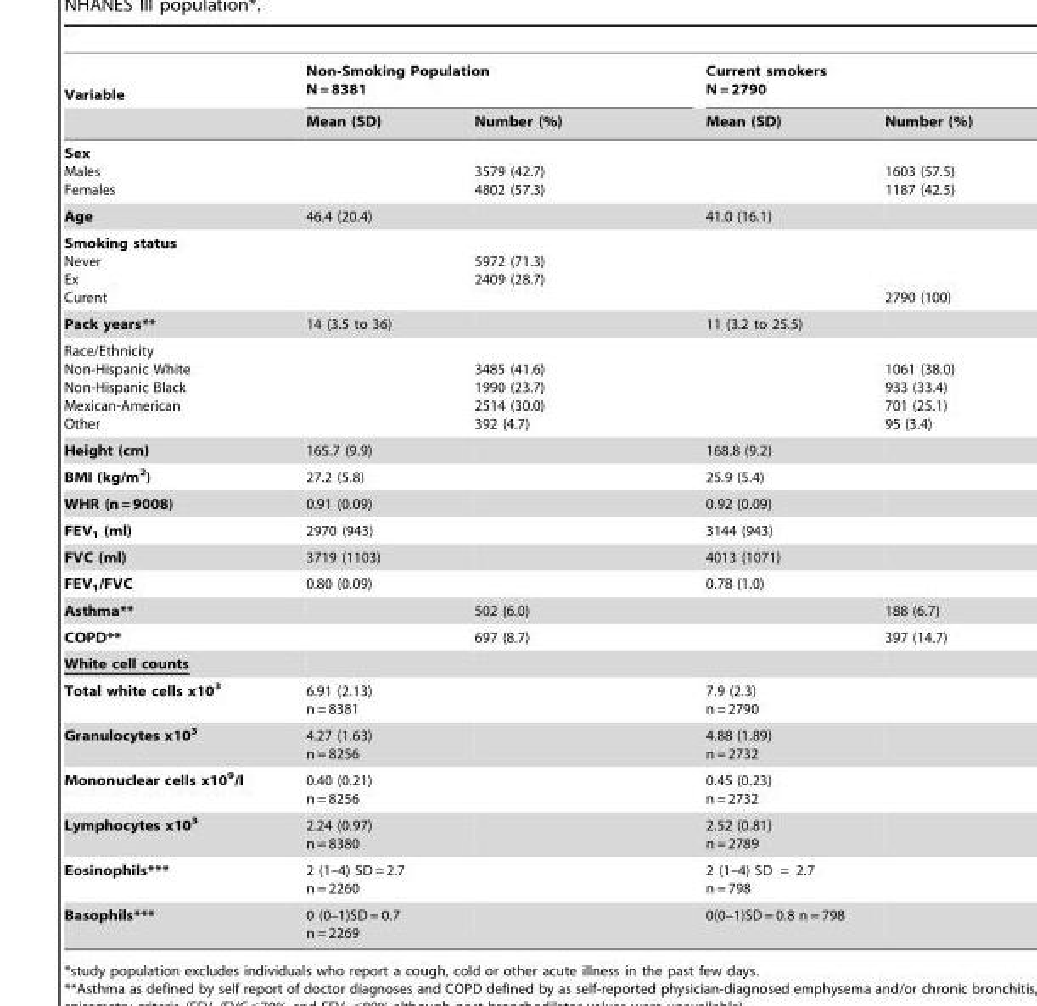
<table><thead><tr><td rowspan="2">Variable</td><td colspan="2">Non-Smoking Population N = 8381</td><td colspan="2">Current smokers N = 2790</td></tr><tr><td>Mean (SD)</td><td>Number (%)</td><td>Mean (SD)</td><td>Number (%)</td></tr></thead><tbody><tr><td>Sex Males Females</td><td></td><td>3579 (42.7) 4802 (57.3)</td><td></td><td>1603 (57.5) 1187 (42.5)</td></tr><tr><td>Age</td><td>46.4 (20.4)</td><td></td><td>41.0 (16.1)</td><td></td></tr><tr><td>Smoking status Never Ex Curent</td><td></td><td>5972 (71.3) 2409 (28.7)</td><td></td><td>2790 (100)</td></tr><tr><td>Pack years**</td><td>14 (3.5 to 36)</td><td></td><td>11 (3.2 to 25.5)</td><td></td></tr><tr><td>Race/Ethnicity Non-Hispanic White Non-Hispanic Black Mexican-American Other</td><td></td><td>3485 (41.6) 1990 (23.7) 2514 (30.0) 392 (4.7)</td><td></td><td>1061 (38.0) 933 (33.4) 701 (25.1) 95 (3.4)</td></tr><tr><td>Height (cm)</td><td>165.7 (9.9)</td><td></td><td>168.8 (9.2)</td><td></td></tr><tr><td>BMI (kg/m<sup>2</sup>)</td><td>27.2 (5.8)</td><td></td><td>25.9 (5.4)</td><td></td></tr><tr><td>WHR (n = 9008)</td><td>0.91 (0.09)</td><td></td><td>0.92 (0.09)</td><td></td></tr><tr><td>FEV<sub>1</sub> (ml)</td><td>2970 (943)</td><td></td><td>3144 (943)</td><td></td></tr><tr><td>FVC (ml)</td><td>3719 (1103)</td><td></td><td>4013 (1071)</td><td></td></tr><tr><td>FEV<sub>1</sub>/FVC</td><td>0.80 (0.09)</td><td></td><td>0.78 (1.0)</td><td></td></tr><tr><td>Asthma**</td><td></td><td>502 (6.0)</td><td></td><td>188 (6.7)</td></tr><tr><td>COPD**</td><td></td><td>697 (8.7)</td><td></td><td>397 (14.7)</td></tr><tr><td colspan="5">White cell counts</td></tr><tr><td>Total white cells x10<sup>3</sup></td><td>6.91 (2.13) n = 8381</td><td></td><td>7.9 (2.3) n = 2790</td><td></td></tr><tr><td>Granulocytes x10<sup>3</sup></td><td>4.27 (1.63) n = 8256</td><td></td><td>4.88 (1.89) n = 2732</td><td></td></tr><tr><td>Mononuclear cells x10<sup>9</sup>/l</td><td>0.40 (0.21) n = 8256</td><td></td><td>0.45 (0.23) n = 2732</td><td></td></tr><tr><td>Lymphocytes x10<sup>3</sup></td><td>2.24 (0.97) n = 8380</td><td></td><td>2.52 (0.81) n = 2789</td><td></td></tr><tr><td>Eosinophils***</td><td>2 (1–4) SD = 2.7 n = 2260</td><td></td><td>2 (1–4) SD = 2.7 n = 798</td><td></td></tr><tr><td>Basophils***</td><td>0 (0–1)SD = 0.7 n = 2269</td><td></td><td>0(0–1)SD = 0.8 n = 798</td><td></td></tr></tbody></table>